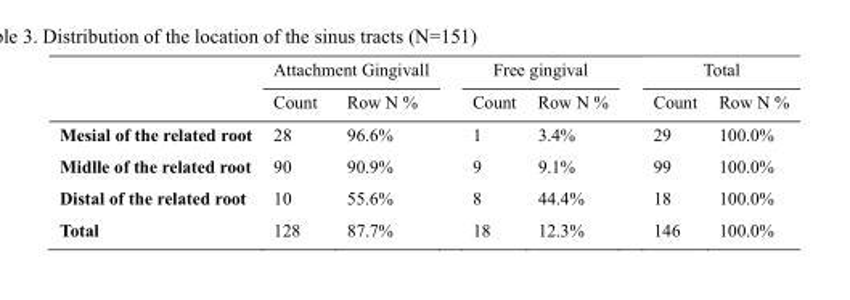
<table><thead><tr><td rowspan="2"></td><td colspan="2">Attachment Gingivall</td><td colspan="2">Free gingival</td><td colspan="2">Total</td></tr><tr><td>Count</td><td>Row N %</td><td>Count</td><td>Row N %</td><td>Count</td><td>Row N %</td></tr></thead><tbody><tr><td>Mesial of the related root</td><td>28</td><td>96.6%</td><td>1</td><td>3.4%</td><td>29</td><td>100.0%</td></tr><tr><td>Midlle of the related root</td><td>90</td><td>90.9%</td><td>9</td><td>9.1%</td><td>99</td><td>100.0%</td></tr><tr><td>Distal of the related root</td><td>10</td><td>55.6%</td><td>8</td><td>44.4%</td><td>18</td><td>100.0%</td></tr><tr><td>Total</td><td>128</td><td>87.7%</td><td>18</td><td>12.3%</td><td>146</td><td>100.0%</td></tr></tbody></table>